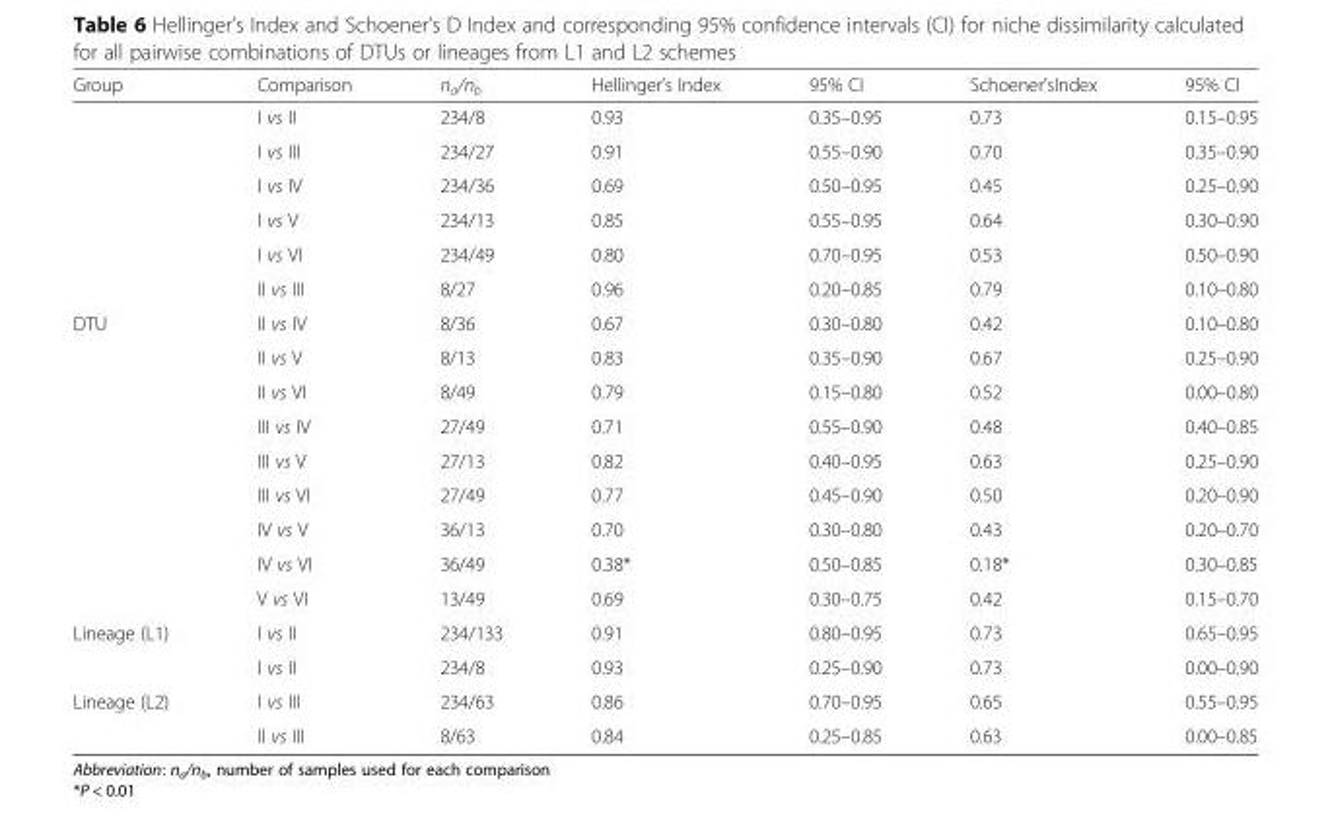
<table><thead><tr><td>Group</td><td>Comparison</td><td>n<sub>a</sub>/n<sub>b</sub></td><td>Hellinger’s Index</td><td>95% CI</td><td>Schoener’sIndex</td><td>95% CI</td></tr></thead><tbody><tr><td></td><td>I vs II</td><td>234/8</td><td>0.93</td><td>0.35–0.95</td><td>0.73</td><td>0.15–0.95</td></tr><tr><td></td><td>I vs III</td><td>234/27</td><td>0.91</td><td>0.55–0.90</td><td>0.70</td><td>0.35–0.90</td></tr><tr><td></td><td>I vs IV</td><td>234/36</td><td>0.69</td><td>0.50–0.95</td><td>0.45</td><td>0.25–0.90</td></tr><tr><td></td><td>I vs V</td><td>234/13</td><td>0.85</td><td>0.55–0.95</td><td>0.64</td><td>0.30–0.90</td></tr><tr><td></td><td>I vs VI</td><td>234/49</td><td>0.80</td><td>0.70–0.95</td><td>0.53</td><td>0.50–0.90</td></tr><tr><td></td><td>II vs III</td><td>8/27</td><td>0.96</td><td>0.20–0.85</td><td>0.79</td><td>0.10–0.80</td></tr><tr><td rowspan="9">DTU</td><td>II vs IV</td><td>8/36</td><td>0.67</td><td>0.30–0.80</td><td>0.42</td><td>0.10–0.80</td></tr><tr><td>II vs V</td><td>8/13</td><td>0.83</td><td>0.35–0.90</td><td>0.67</td><td>0.25–0.90</td></tr><tr><td>II vs VI</td><td>8/49</td><td>0.79</td><td>0.15–0.80</td><td>0.52</td><td>0.00–0.80</td></tr><tr><td>III vs IV</td><td>27/49</td><td>0.71</td><td>0.55–0.90</td><td>0.48</td><td>0.40–0.85</td></tr><tr><td>III vs V</td><td>27/13</td><td>0.82</td><td>0.40–0.95</td><td>0.63</td><td>0.25–0.90</td></tr><tr><td>III vs VI</td><td>27/49</td><td>0.77</td><td>0.45–0.90</td><td>0.50</td><td>0.20–0.90</td></tr><tr><td>IV vs V</td><td>36/13</td><td>0.70</td><td>0.30–0.80</td><td>0.43</td><td>0.20–0.70</td></tr><tr><td>IV vs VI</td><td>36/49</td><td>0.38*</td><td>0.50–0.85</td><td>0.18*</td><td>0.30–0.85</td></tr><tr><td>V vs VI</td><td>13/49</td><td>0.69</td><td>0.30–0.75</td><td>0.42</td><td>0.15–0.70</td></tr><tr><td rowspan="2">Lineage (L1)</td><td>I vs II</td><td>234/133</td><td>0.91</td><td>0.80–0.95</td><td>0.73</td><td>0.65–0.95</td></tr><tr><td>I vs II</td><td>234/8</td><td>0.93</td><td>0.25–0.90</td><td>0.73</td><td>0.00–0.90</td></tr><tr><td rowspan="2">Lineage (L2)</td><td>I vs III</td><td>234/63</td><td>0.86</td><td>0.70–0.95</td><td>0.65</td><td>0.55–0.95</td></tr><tr><td>II vs III</td><td>8/63</td><td>0.84</td><td>0.25–0.85</td><td>0.63</td><td>0.00–0.85</td></tr></tbody></table>